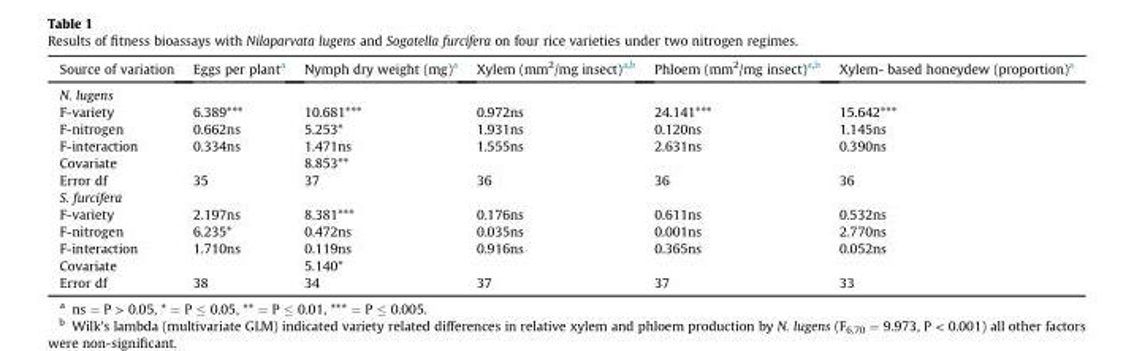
<table><thead><tr><td>Source of variation</td><td>Eggs per plant<sup>a</sup></td><td>Nymph dry weight (mg)<sup>a</sup></td><td>Xylem (mm<sup>2</sup>/mg insect)<sup>a,b</sup></td><td>Phloem (mm<sup>2</sup>/mg insect)<sup>a,b</sup></td><td>Xylem- based honeydew (proportion)<sup>a</sup></td></tr></thead><tbody><tr><td colspan="6">N. lugens</td></tr><tr><td>F-variety</td><td>6.389***</td><td>10.681***</td><td>0.972ns</td><td>24.141***</td><td>15.642***</td></tr><tr><td>F-nitrogen</td><td>0.662ns</td><td>5.253*</td><td>1.931ns</td><td>0.120ns</td><td>1.145ns</td></tr><tr><td>F-interaction</td><td>0.334ns</td><td>1.471ns</td><td>1.555ns</td><td>2.631ns</td><td>0.390ns</td></tr><tr><td>Covariate</td><td></td><td>8.853**</td><td></td><td></td><td></td></tr><tr><td>Error df</td><td>35</td><td>37</td><td>36</td><td>36</td><td>36</td></tr><tr><td colspan="6">S. furcifera</td></tr><tr><td>F-variety</td><td>2.197ns</td><td>8.381***</td><td>0.176ns</td><td>0.611ns</td><td>0.532ns</td></tr><tr><td>F-nitrogen</td><td>6.235*</td><td>0.472ns</td><td>0.035ns</td><td>0.001ns</td><td>2.770ns</td></tr><tr><td>F-interaction</td><td>1.710ns</td><td>0.119ns</td><td>0.916ns</td><td>0.365ns</td><td>0.052ns</td></tr><tr><td>Covariate</td><td></td><td>5.140*</td><td></td><td></td><td></td></tr><tr><td>Error df</td><td>38</td><td>34</td><td>37</td><td>37</td><td>33</td></tr></tbody></table>